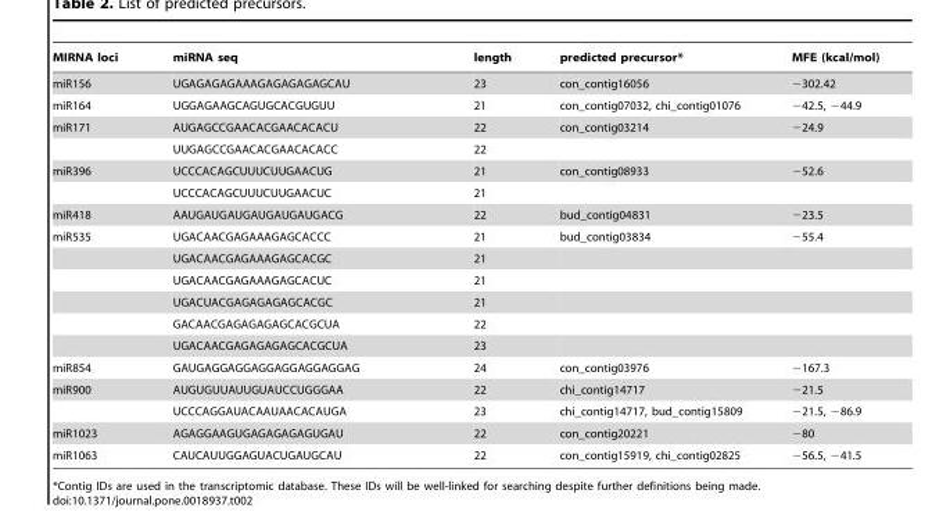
<table><thead><tr><td>MIRNA loci</td><td>miRNA seq</td><td>length</td><td>predicted precursor*</td><td>MFE (kcal/mol)</td></tr></thead><tbody><tr><td>miR156</td><td>UGAGAGAGAAAGAGAGAGAGCAU</td><td>23</td><td>con_contig16056</td><td>−302.42</td></tr><tr><td>miR164</td><td>UGGAGAAGCAGUGCACGUGUU</td><td>21</td><td>con_contig07032, chi_contig01076</td><td>−42.5, −44.9</td></tr><tr><td rowspan="2">miR171</td><td>AUGAGCCGAACACGAACACACU</td><td>22</td><td>con_contig03214</td><td>−24.9</td></tr><tr><td>UUGAGCCGAACACGAACACACC</td><td>22</td><td></td><td></td></tr><tr><td rowspan="2">miR396</td><td>UCCCACAGCUUUCUUGAACUG</td><td>21</td><td>con_contig08933</td><td>−52.6</td></tr><tr><td>UCCCACAGCUUUCUUGAACUC</td><td>21</td><td></td><td></td></tr><tr><td>miR418</td><td>AAUGAUGAUGAUGAUGAUGACG</td><td>22</td><td>bud_contig04831</td><td>−23.5</td></tr><tr><td rowspan="6">miR535</td><td>UGACAACGAGAAAGAGCACCC</td><td>21</td><td>bud_contig03834</td><td>−55.4</td></tr><tr><td>UGACAACGAGAAAGAGCACGC</td><td>21</td><td></td><td></td></tr><tr><td>UGACAACGAGAAAGAGCACUC</td><td>21</td><td></td><td></td></tr><tr><td>UGACUACGAGAGAGAGCACGC</td><td>21</td><td></td><td></td></tr><tr><td>GACAACGAGAGAGAGCACGCUA</td><td>22</td><td></td><td></td></tr><tr><td>UGACAACGAGAGAGAGCACGCUA</td><td>23</td><td></td><td></td></tr><tr><td>miR854</td><td>GAUGAGGAGGAGGAGGAGGAGGAG</td><td>24</td><td>con_contig03976</td><td>−167.3</td></tr><tr><td rowspan="2">miR900</td><td>AUGUGUUAUUGUAUCCUGGGAA</td><td>22</td><td>chi_contig14717</td><td>−21.5</td></tr><tr><td>UCCCAGGAUACAAUAACACAUGA</td><td>23</td><td>chi_contig14717, bud_contig15809</td><td>−21.5, −86.9</td></tr><tr><td>miR1023</td><td>AGAGGAAGUGAGAGAGAGUGAU</td><td>22</td><td>con_contig20221</td><td>−80</td></tr><tr><td>miR1063</td><td>CAUCAUUGGAGUACUGAUGCAU</td><td>22</td><td>con_contig15919, chi_contig02825</td><td>−56.5, −41.5</td></tr></tbody></table>